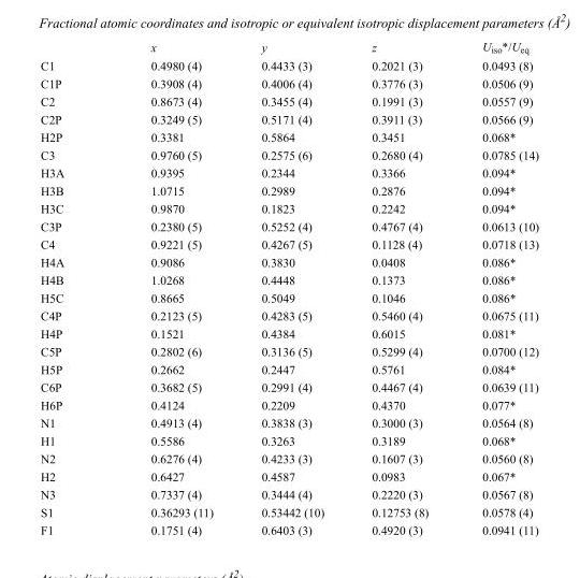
<table><thead><tr><td></td><td>x</td><td>y</td><td>z</td><td>U<sub>iso</sub>*/U<sub>eq</sub></td></tr></thead><tbody><tr><td>C1</td><td>0.4980 (4)</td><td>0.4433 (3)</td><td>0.2021 (3)</td><td>0.0493 (8)</td></tr><tr><td>C1P</td><td>0.3908 (4)</td><td>0.4006 (4)</td><td>0.3776 (3)</td><td>0.0506 (9)</td></tr><tr><td>C2</td><td>0.8673 (4)</td><td>0.3455 (4)</td><td>0.1991 (3)</td><td>0.0557 (9)</td></tr><tr><td>C2P</td><td>0.3249 (5)</td><td>0.5171 (4)</td><td>0.3911 (3)</td><td>0.0566 (9)</td></tr><tr><td>H2P</td><td>0.3381</td><td>0.5864</td><td>0.3451</td><td>0.068*</td></tr><tr><td>C3</td><td>0.9760 (5)</td><td>0.2575 (6)</td><td>0.2680 (4)</td><td>0.0785 (14)</td></tr><tr><td>H3A</td><td>0.9395</td><td>0.2344</td><td>0.3366</td><td>0.094*</td></tr><tr><td>H3B</td><td>1.0715</td><td>0.2989</td><td>0.2876</td><td>0.094*</td></tr><tr><td>H3C</td><td>0.9870</td><td>0.1823</td><td>0.2242</td><td>0.094*</td></tr><tr><td>C3P</td><td>0.2380 (5)</td><td>0.5252 (4)</td><td>0.4767 (4)</td><td>0.0613 (10)</td></tr><tr><td>C4</td><td>0.9221 (5)</td><td>0.4267 (5)</td><td>0.1128 (4)</td><td>0.0718 (13)</td></tr><tr><td>H4A</td><td>0.9086</td><td>0.3830</td><td>0.0408</td><td>0.086*</td></tr><tr><td>H4B</td><td>1.0268</td><td>0.4448</td><td>0.1373</td><td>0.086*</td></tr><tr><td>H5C</td><td>0.8665</td><td>0.5049</td><td>0.1046</td><td>0.086*</td></tr><tr><td>C4P</td><td>0.2123 (5)</td><td>0.4283 (5)</td><td>0.5460 (4)</td><td>0.0675 (11)</td></tr><tr><td>H4P</td><td>0.1521</td><td>0.4384</td><td>0.6015</td><td>0.081*</td></tr><tr><td>C5P</td><td>0.2802 (6)</td><td>0.3136 (5)</td><td>0.5299 (4)</td><td>0.0700 (12)</td></tr><tr><td>H5P</td><td>0.2662</td><td>0.2447</td><td>0.5761</td><td>0.084*</td></tr><tr><td>C6P</td><td>0.3682 (5)</td><td>0.2991 (4)</td><td>0.4467 (4)</td><td>0.0639 (11)</td></tr><tr><td>H6P</td><td>0.4124</td><td>0.2209</td><td>0.4370</td><td>0.077*</td></tr><tr><td>N1</td><td>0.4913 (4)</td><td>0.3838 (3)</td><td>0.3000 (3)</td><td>0.0564 (8)</td></tr><tr><td>H1</td><td>0.5586</td><td>0.3263</td><td>0.3189</td><td>0.068*</td></tr><tr><td>N2</td><td>0.6276 (4)</td><td>0.4233 (3)</td><td>0.1607 (3)</td><td>0.0560 (8)</td></tr><tr><td>H2</td><td>0.6427</td><td>0.4587</td><td>0.0983</td><td>0.067*</td></tr><tr><td>N3</td><td>0.7337 (4)</td><td>0.3444 (4)</td><td>0.2220 (3)</td><td>0.0567 (8)</td></tr><tr><td>S1</td><td>0.36293 (11)</td><td>0.53442 (10)</td><td>0.12753 (8)</td><td>0.0578 (4)</td></tr><tr><td>F1</td><td>0.1751 (4)</td><td>0.6403 (3)</td><td>0.4920 (3)</td><td>0.0941 (11)</td></tr></tbody></table>